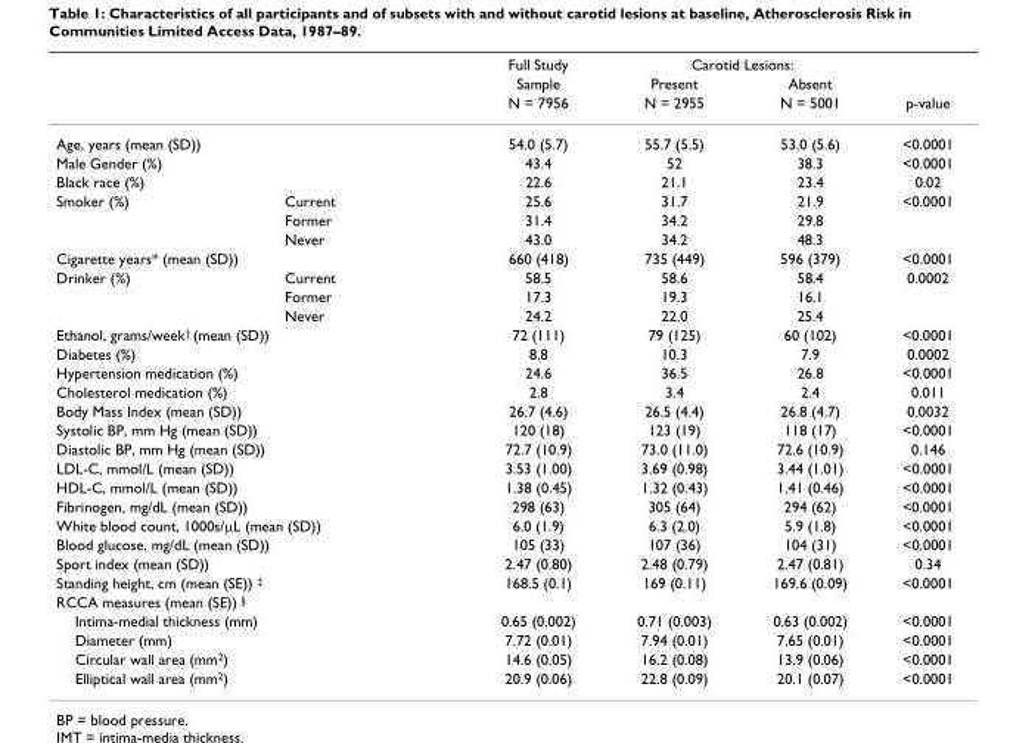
<table><thead><tr><td rowspan="3"></td><td rowspan="3"></td><td rowspan="3">Full Study Sample N = 7956</td><td colspan="2">Carotid Lesions:</td><td rowspan="3">p-value</td></tr><tr><td rowspan="2">Present N = 2955</td><td rowspan="2">Absent N = 5001</td></tr><tr></tr></thead><tbody><tr><td colspan="2">Age, years (mean (SD))</td><td>54.0 (5.7)</td><td>55.7 (5.5)</td><td>53.0 (5.6)</td><td>&lt;0.0001</td></tr><tr><td colspan="2">Male Gender (%)</td><td>43.4</td><td>52</td><td>38.3</td><td>&lt;0.0001</td></tr><tr><td colspan="2">Black race (%)</td><td>22.6</td><td>21.1</td><td>23.4</td><td>0.02</td></tr><tr><td rowspan="3">Smoker (%)</td><td>Current</td><td>25.6</td><td>31.7</td><td>21.9</td><td>&lt;0.0001</td></tr><tr><td>Former</td><td>31.4</td><td>34.2</td><td>29.8</td><td></td></tr><tr><td>Never</td><td>43.0</td><td>34.2</td><td>48.3</td><td></td></tr><tr><td colspan="2">Cigarette years* (mean (SD))</td><td>660 (418)</td><td>735 (449)</td><td>596 (379)</td><td>&lt;0.0001</td></tr><tr><td rowspan="3">Drinker (%)</td><td>Current</td><td>58.5</td><td>58.6</td><td>58.4</td><td>0.0002</td></tr><tr><td>Former</td><td>17.3</td><td>19.3</td><td>16.1</td><td></td></tr><tr><td>Never</td><td>24.2</td><td>22.0</td><td>25.4</td><td></td></tr><tr><td colspan="2">Ethanol, grams/week<sup>†</sup> (mean (SD))</td><td>72 (111)</td><td>79 (125)</td><td>60 (102)</td><td>&lt;0.0001</td></tr><tr><td colspan="2">Diabetes (%)</td><td>8.8</td><td>10.3</td><td>7.9</td><td>0.0002</td></tr><tr><td colspan="2">Hypertension medication (%)</td><td>24.6</td><td>36.5</td><td>26.8</td><td>&lt;0.0001</td></tr><tr><td colspan="2">Cholesterol medication (%)</td><td>2.8</td><td>3.4</td><td>2.4</td><td>0.011</td></tr><tr><td colspan="2">Body Mass Index (mean (SD))</td><td>26.7 (4.6)</td><td>26.5 (4.4)</td><td>26.8 (4.7)</td><td>0.0032</td></tr><tr><td colspan="2">Systolic BP, mm Hg (mean (SD))</td><td>120 (18)</td><td>123 (19)</td><td>118 (17)</td><td>&lt;0.0001</td></tr><tr><td colspan="2">Diastolic BP, mm Hg (mean (SD))</td><td>72.7 (10.9)</td><td>73.0 (11.0)</td><td>72.6 (10.9)</td><td>0.146</td></tr><tr><td colspan="2">LDL-C, mmol/L (mean (SD))</td><td>3.53 (1.00)</td><td>3.69 (0.98)</td><td>3.44 (1.01)</td><td>&lt;0.0001</td></tr><tr><td colspan="2">HDL-C, mmol/L (mean (SD))</td><td>1.38 (0.45)</td><td>1.32 (0.43)</td><td>1.41 (0.46)</td><td>&lt;0.0001</td></tr><tr><td colspan="2">Fibrinogen, mg/dL (mean (SD))</td><td>298 (63)</td><td>305 (64)</td><td>294 (62)</td><td>&lt;0.0001</td></tr><tr><td colspan="2">White blood count, 1000s/µL (mean (SD))</td><td>6.0 (1.9)</td><td>6.3 (2.0)</td><td>5.9 (1.8)</td><td>&lt;0.0001</td></tr><tr><td colspan="2">Blood glucose, mg/dL (mean (SD))</td><td>105 (33)</td><td>107 (36)</td><td>104 (31)</td><td>&lt;0.0001</td></tr><tr><td colspan="2">Sport index (mean (SD))</td><td>2.47 (0.80)</td><td>2.48 (0.79)</td><td>2.47 (0.81)</td><td>0.34</td></tr><tr><td colspan="2">Standing height, cm (mean (SE)) <sup>‡</sup></td><td>168.5 (0.1)</td><td>169 (0.11)</td><td>169.6 (0.09)</td><td>&lt;0.0001</td></tr><tr><td colspan="6">RCCA measures (mean (SE)) <sup>§</sup></td></tr><tr><td colspan="2">Intima-medial thickness (mm)</td><td>0.65 (0.002)</td><td>0.71 (0.003)</td><td>0.63 (0.002)</td><td>&lt;0.0001</td></tr><tr><td colspan="2">Diameter (mm)</td><td>7.72 (0.01)</td><td>7.94 (0.01)</td><td>7.65 (0.01)</td><td>&lt;0.0001</td></tr><tr><td colspan="2">Circular wall area (mm<sup>2</sup>)</td><td>14.6 (0.05)</td><td>16.2 (0.08)</td><td>13.9 (0.06)</td><td>&lt;0.0001</td></tr><tr><td colspan="2">Elliptical wall area (mm<sup>2</sup>)</td><td>20.9 (0.06)</td><td>22.8 (0.09)</td><td>20.1 (0.07)</td><td>&lt;0.0001</td></tr></tbody></table>